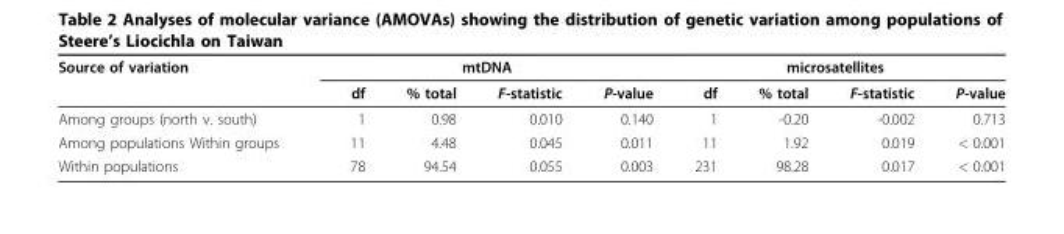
<table><thead><tr><td rowspan="2">Source of variation</td><td colspan="4">mtDNA</td><td colspan="4">microsatellites</td></tr><tr><td>df</td><td>% total</td><td>F-statistic</td><td>P-value</td><td>df</td><td>% total</td><td>F-statistic</td><td>P-value</td></tr></thead><tbody><tr><td>Among groups (north v. south)</td><td>1</td><td>0.98</td><td>0.010</td><td>0.140</td><td>1</td><td>-0.20</td><td>-0.002</td><td>0.713</td></tr><tr><td>Among populations Within groups</td><td>11</td><td>4.48</td><td>0.045</td><td>0.011</td><td>11</td><td>1.92</td><td>0.019</td><td>&lt; 0.001</td></tr><tr><td>Within populations</td><td>78</td><td>94.54</td><td>0.055</td><td>0.003</td><td>231</td><td>98.28</td><td>0.017</td><td>&lt; 0.001</td></tr></tbody></table>